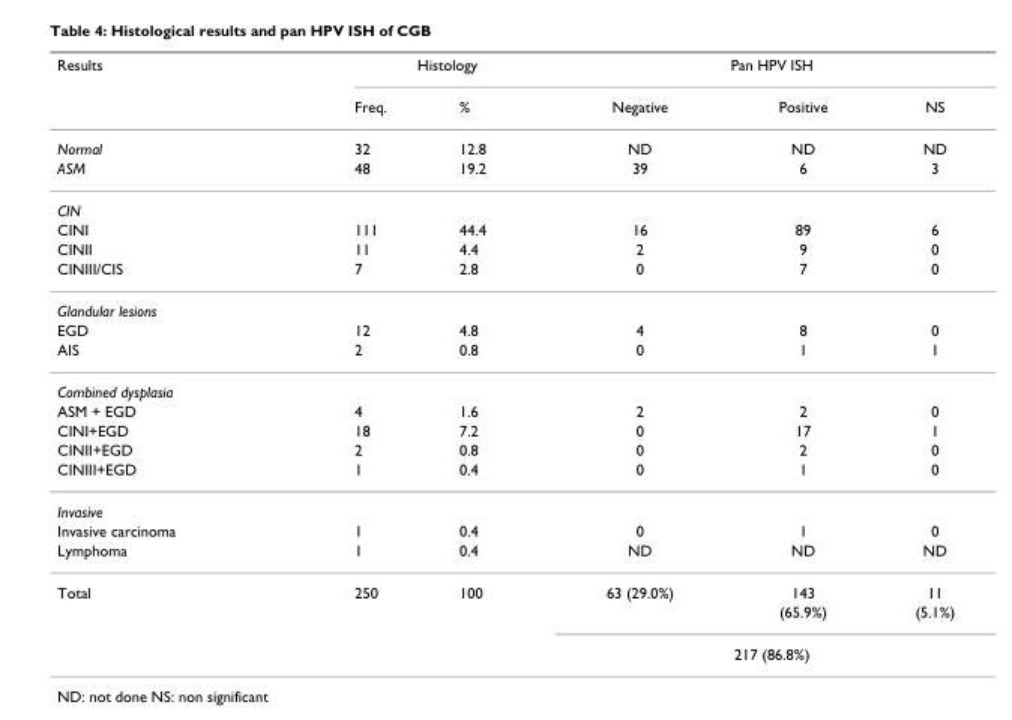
<table><thead><tr><td rowspan="2">Results</td><td colspan="2">Histology</td><td colspan="3">Pan HPV ISH</td></tr><tr><td>Freq.</td><td>%</td><td>Negative</td><td>Positive</td><td>NS</td></tr></thead><tbody><tr><td>Normal</td><td>32</td><td>12.8</td><td>ND</td><td>ND</td><td>ND</td></tr><tr><td>ASM</td><td>48</td><td>19.2</td><td>39</td><td>6</td><td>3</td></tr><tr><td colspan="6">CIN</td></tr><tr><td>CINI</td><td>111</td><td>44.4</td><td>16</td><td>89</td><td>6</td></tr><tr><td>CINII</td><td>11</td><td>4.4</td><td>2</td><td>9</td><td>0</td></tr><tr><td>CINIII/CIS</td><td>7</td><td>2.8</td><td>0</td><td>7</td><td>0</td></tr><tr><td colspan="6">Glandular lesions</td></tr><tr><td>EGD</td><td>12</td><td>4.8</td><td>4</td><td>8</td><td>0</td></tr><tr><td>AIS</td><td>2</td><td>0.8</td><td>0</td><td>1</td><td>1</td></tr><tr><td colspan="6">Combined dysplasia</td></tr><tr><td>ASM + EGD</td><td>4</td><td>1.6</td><td>2</td><td>2</td><td>0</td></tr><tr><td>CINI+EGD</td><td>18</td><td>7.2</td><td>0</td><td>17</td><td>1</td></tr><tr><td>CINII+EGD</td><td>2</td><td>0.8</td><td>0</td><td>2</td><td>0</td></tr><tr><td>CINIII+EGD</td><td>1</td><td>0.4</td><td>0</td><td>1</td><td>0</td></tr><tr><td colspan="6">Invasive</td></tr><tr><td>Invasive carcinoma</td><td>1</td><td>0.4</td><td>0</td><td>1</td><td>0</td></tr><tr><td>Lymphoma</td><td>1</td><td>0.4</td><td>ND</td><td>ND</td><td>ND</td></tr><tr><td rowspan="3">Total</td><td>250</td><td>100</td><td>63 (29.0%)</td><td>143</td><td>11</td></tr><tr><td></td><td></td><td></td><td>(65.9%)</td><td>(5.1%)</td></tr><tr><td></td><td></td><td colspan="3">217 (86.8%)</td></tr></tbody></table>